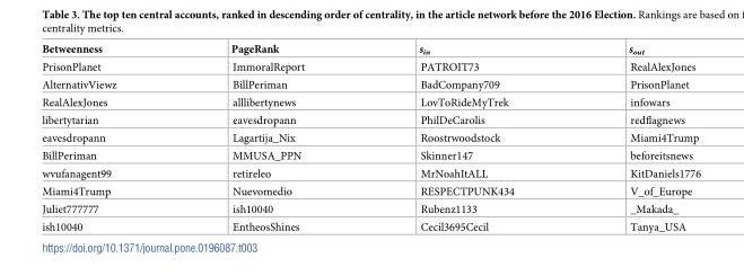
<table><thead><tr><td>Betweenness</td><td>PageRank</td><td>s<sub>in</sub></td><td>s<sub>out</sub></td></tr></thead><tbody><tr><td>PrisonPlanet</td><td>ImmoralReport</td><td>PATROIT73</td><td>RealAlexJones</td></tr><tr><td>AlternativViewz</td><td>BillPeriman</td><td>BadCompany709</td><td>PrisonPlanet</td></tr><tr><td>RealAlexJones</td><td>alllibertynews</td><td>LovToRideMyTrek</td><td>infowars</td></tr><tr><td>libertytarian</td><td>eavesdropann</td><td>PhilDeCarolis</td><td>redflagnews</td></tr><tr><td>eavesdropann</td><td>Lagartija_Nix</td><td>Roostrwoodstock</td><td>Miami4Trump</td></tr><tr><td>BillPeriman</td><td>MMUSA_PPN</td><td>Skinner147</td><td>beforeitsnews</td></tr><tr><td>wvufanagent99</td><td>retireleo</td><td>MrNoahItALL</td><td>KitDaniels1776</td></tr><tr><td>Miami4Trump</td><td>Nuevomedio</td><td>RESPECTPUNK434</td><td>V_of_Europe</td></tr><tr><td>Juliet777777</td><td>ish10040</td><td>Rubenz1133</td><td>_Makada_</td></tr><tr><td>ish10040</td><td>EntheosShines</td><td>Cecil3695Cecil</td><td>Tanya_USA</td></tr></tbody></table>